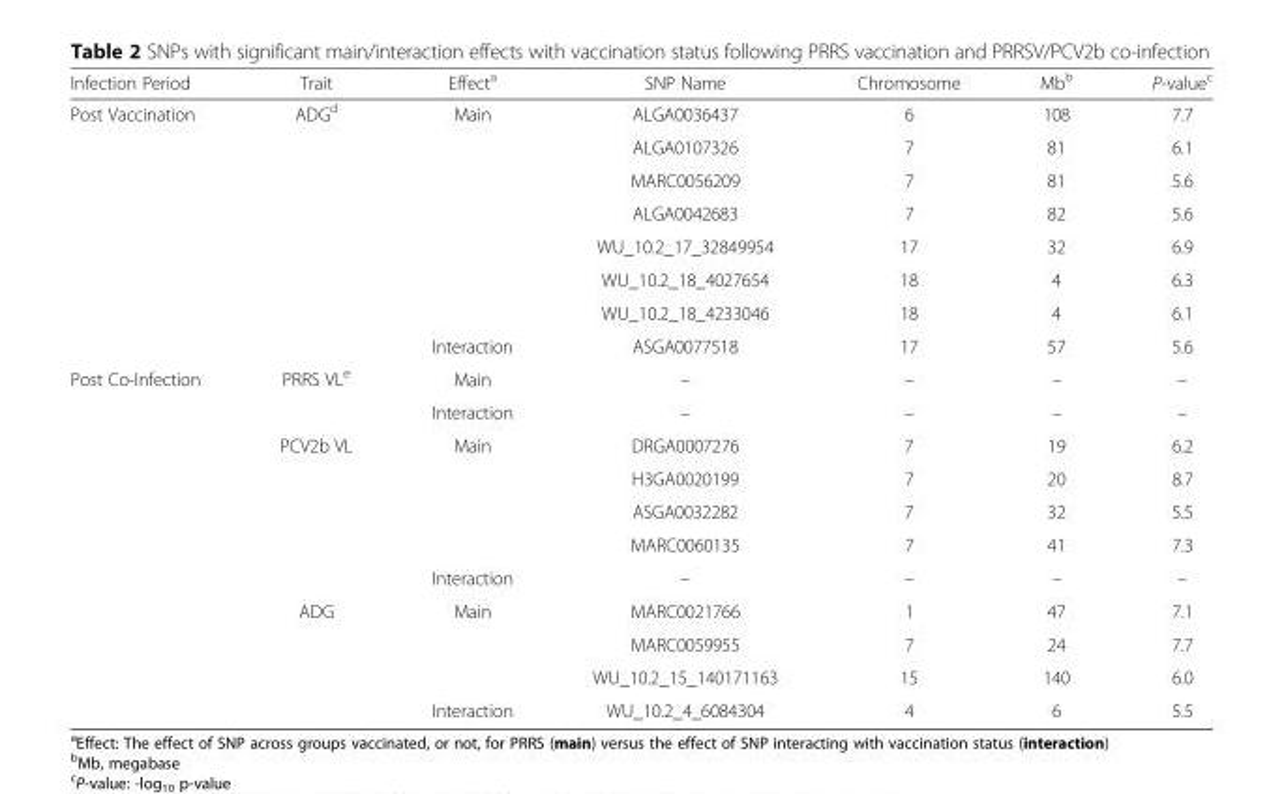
<table><thead><tr><td>Infection Period</td><td>Trait</td><td>Effect<sup>a</sup></td><td>SNP Name</td><td>Chromosome</td><td>Mb<sup>b</sup></td><td>P-value<sup>c</sup></td></tr></thead><tbody><tr><td rowspan="8">Post Vaccination</td><td rowspan="8">ADG<sup>d</sup></td><td rowspan="7">Main</td><td>ALGA0036437</td><td>6</td><td>108</td><td>7.7</td></tr><tr><td>ALGA0107326</td><td>7</td><td>81</td><td>6.1</td></tr><tr><td>MARC0056209</td><td>7</td><td>81</td><td>5.6</td></tr><tr><td>ALGA0042683</td><td>7</td><td>82</td><td>5.6</td></tr><tr><td>WU_10.2_17_32849954</td><td>17</td><td>32</td><td>6.9</td></tr><tr><td>WU_10.2_18_4027654</td><td>18</td><td>4</td><td>6.3</td></tr><tr><td>WU_10.2_18_4233046</td><td>18</td><td>4</td><td>6.1</td></tr><tr><td>Interaction</td><td>ASGA0077518</td><td>17</td><td>57</td><td>5.6</td></tr><tr><td rowspan="11">Post Co-Infection</td><td rowspan="2">PRRS VL<sup>e</sup></td><td>Main</td><td>–</td><td>–</td><td>–</td><td>–</td></tr><tr><td>Interaction</td><td>–</td><td>–</td><td>–</td><td>–</td></tr><tr><td rowspan="5">PCV2b VL</td><td rowspan="4">Main</td><td>DRGA0007276</td><td>7</td><td>19</td><td>6.2</td></tr><tr><td>H3GA0020199</td><td>7</td><td>20</td><td>8.7</td></tr><tr><td>ASGA0032282</td><td>7</td><td>32</td><td>5.5</td></tr><tr><td>MARC0060135</td><td>7</td><td>41</td><td>7.3</td></tr><tr><td>Interaction</td><td>–</td><td>–</td><td>–</td><td>–</td></tr><tr><td rowspan="4">ADG</td><td rowspan="3">Main</td><td>MARC0021766</td><td>1</td><td>47</td><td>7.1</td></tr><tr><td>MARC0059955</td><td>7</td><td>24</td><td>7.7</td></tr><tr><td>WU_10.2_15_140171163</td><td>15</td><td>140</td><td>6.0</td></tr><tr><td>Interaction</td><td>WU_10.2_4_6084304</td><td>4</td><td>6</td><td>5.5</td></tr></tbody></table>